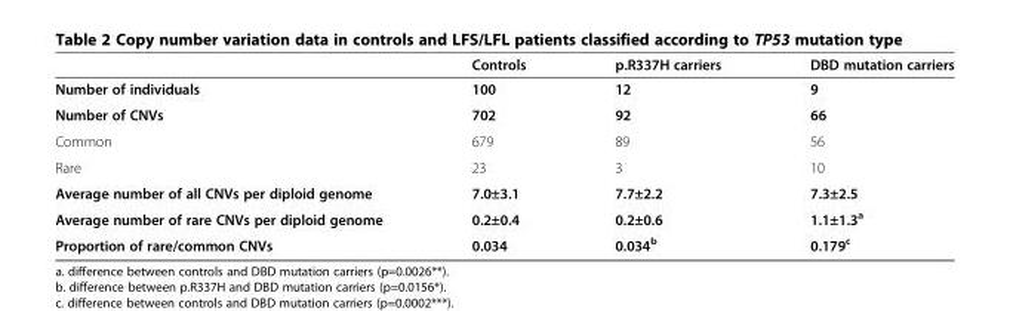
<table><thead><tr><td></td><td>Controls</td><td>p.R337H carriers</td><td>DBD mutation carriers</td></tr></thead><tbody><tr><td>Number of individuals</td><td>100</td><td>12</td><td>9</td></tr><tr><td>Number of CNVs</td><td>702</td><td>92</td><td>66</td></tr><tr><td>Common</td><td>679</td><td>89</td><td>56</td></tr><tr><td>Rare</td><td>23</td><td>3</td><td>10</td></tr><tr><td>Average number of all CNVs per diploid genome</td><td>7.0±3.1</td><td>7.7±2.2</td><td>7.3±2.5</td></tr><tr><td>Average number of rare CNVs per diploid genome</td><td>0.2±0.4</td><td>0.2±0.6</td><td>1.1±1.3<sup>a</sup></td></tr><tr><td>Proportion of rare/common CNVs</td><td>0.034</td><td>0.034<sup>b</sup></td><td>0.179<sup>c</sup></td></tr></tbody></table>